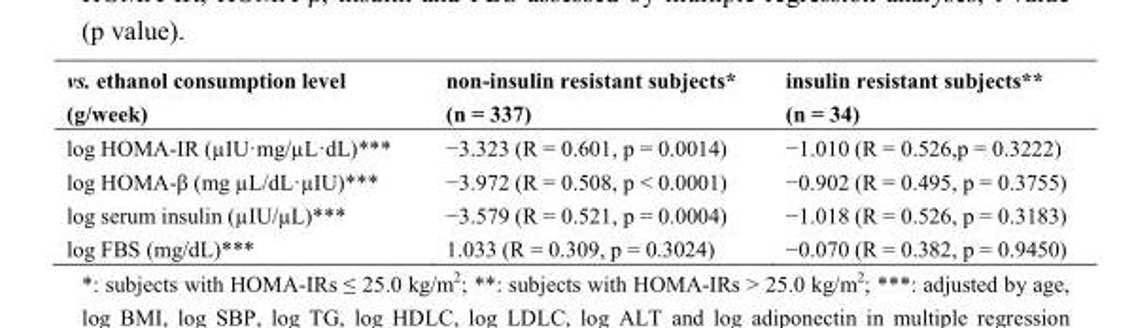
<table><thead><tr><td>vs. ethanol consumption level (g/week)</td><td>non-insulin resistant subjects* (n = 337)</td><td>insulin resistant subjects** (n = 34)</td></tr></thead><tbody><tr><td>log HOMA-IR (µIU·mg/µL·dL)***</td><td>−3.323 (R = 0.601, p = 0.0014)</td><td>−1.010 (R = 0.526,p = 0.3222)</td></tr><tr><td>log HOMA-β (mg µL/dL·µIU)***</td><td>−3.972 (R = 0.508, p &lt; 0.0001)</td><td>−0.902 (R = 0.495, p = 0.3755)</td></tr><tr><td>log serum insulin (µIU/µL)***</td><td>−3.579 (R = 0.521, p = 0.0004)</td><td>−1.018 (R = 0.526, p = 0.3183)</td></tr><tr><td>log FBS (mg/dL)***</td><td>1.033 (R = 0.309, p = 0.3024)</td><td>−0.070 (R = 0.382, p = 0.9450)</td></tr></tbody></table>